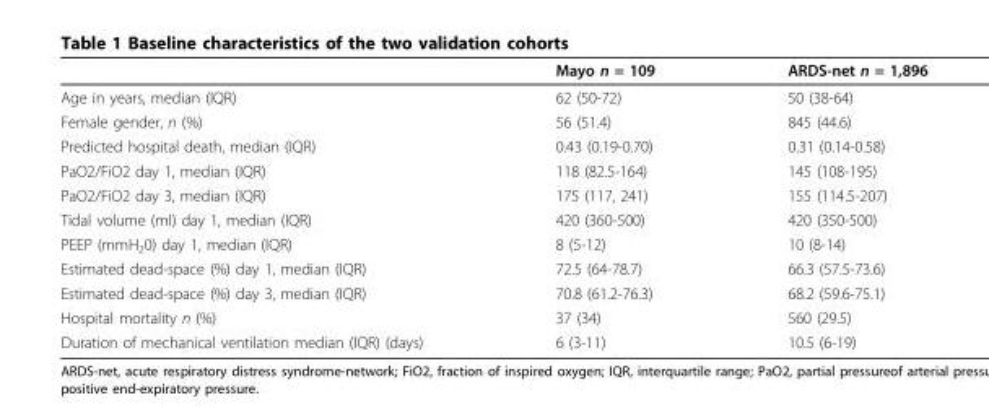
<table><thead><tr><td></td><td>Mayo n = 109</td><td>ARDS-net n = 1,896</td></tr></thead><tbody><tr><td>Age in years, median (IQR)</td><td>62 (50-72)</td><td>50 (38-64)</td></tr><tr><td>Female gender, n (%)</td><td>56 (51.4)</td><td>845 (44.6)</td></tr><tr><td>Predicted hospital death, median (IQR)</td><td>0.43 (0.19-0.70)</td><td>0.31 (0.14-0.58)</td></tr><tr><td>PaO2/FiO2 day 1, median (IQR)</td><td>118 (82.5-164)</td><td>145 (108-195)</td></tr><tr><td>PaO2/FiO2 day 3, median (IQR)</td><td>175 (117, 241)</td><td>155 (114.5-207)</td></tr><tr><td>Tidal volume (ml) day 1, median (IQR)</td><td>420 (360-500)</td><td>420 (350-500)</td></tr><tr><td>PEEP (mmH<sub>2</sub>0) day 1, median (IQR)</td><td>8 (5-12)</td><td>10 (8-14)</td></tr><tr><td>Estimated dead-space (%) day 1, median (IQR)</td><td>72.5 (64-78.7)</td><td>66.3 (57.5-73.6)</td></tr><tr><td>Estimated dead-space (%) day 3, median (IQR)</td><td>70.8 (61.2-76.3)</td><td>68.2 (59.6-75.1)</td></tr><tr><td>Hospital mortality n (%)</td><td>37 (34)</td><td>560 (29.5)</td></tr><tr><td>Duration of mechanical ventilation median (IQR) (days)</td><td>6 (3-11)</td><td>10.5 (6-19)</td></tr></tbody></table>